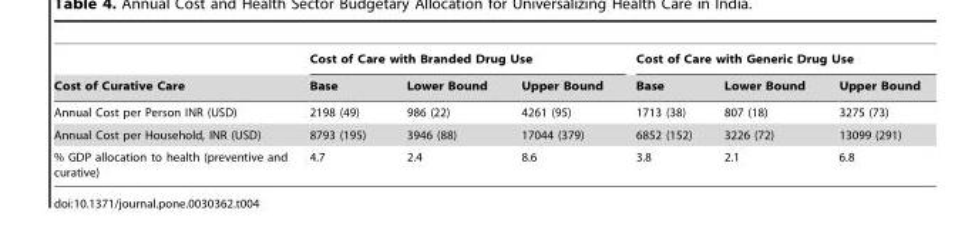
<table><thead><tr><td rowspan="2">Cost of Curative Care</td><td colspan="3">Cost of Care with Branded Drug Use</td><td colspan="3">Cost of Care with Generic Drug Use</td></tr><tr><td>Base</td><td>Lower Bound</td><td>Upper Bound</td><td>Base</td><td>Lower Bound</td><td>Upper Bound</td></tr></thead><tbody><tr><td>Annual Cost per Person INR (USD)</td><td>2198 (49)</td><td>986 (22)</td><td>4261 (95)</td><td>1713 (38)</td><td>807 (18)</td><td>3275 (73)</td></tr><tr><td>Annual Cost per Household, INR (USD)</td><td>8793 (195)</td><td>3946 (88)</td><td>17044 (379)</td><td>6852 (152)</td><td>3226 (72)</td><td>13099 (291)</td></tr><tr><td>% GDP allocation to health (preventive and curative)</td><td>4.7</td><td>2.4</td><td>8.6</td><td>3.8</td><td>2.1</td><td>6.8</td></tr></tbody></table>